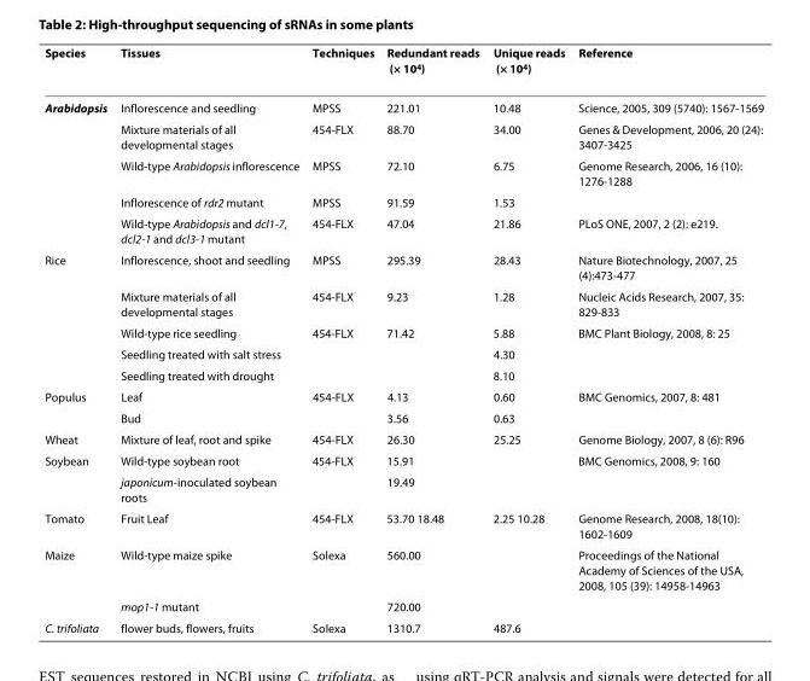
<table><thead><tr><td>Species</td><td>Tissues</td><td>Techniques</td><td>Redundant reads (× 10<sup>4</sup>)</td><td>Unique reads (× 10<sup>4</sup>)</td><td>Reference</td></tr></thead><tbody><tr><td rowspan="5">Arabidopsis</td><td>Inflorescence and seedling</td><td>MPSS</td><td>221.01</td><td>10.48</td><td>Science, 2005, 309 (5740): 1567-1569</td></tr><tr><td>Mixture materials of all developmental stages</td><td>454-FLX</td><td>88.70</td><td>34.00</td><td>Genes &amp; Development, 2006, 20 (24): 3407-3425</td></tr><tr><td>Wild-type Arabidopsis inflorescence</td><td>MPSS</td><td>72.10</td><td>6.75</td><td>Genome Research, 2006, 16 (10): 1276-1288</td></tr><tr><td>Inflorescence of rdr2 mutant</td><td>MPSS</td><td>91.59</td><td>1.53</td><td></td></tr><tr><td>Wild-type Arabidopsis and dcl1-7, dcl2-1 and dcl3-1 mutant</td><td>454-FLX</td><td>47.04</td><td>21.86</td><td>PLoS ONE, 2007, 2 (2): e219.</td></tr><tr><td rowspan="5">Rice</td><td>Inflorescence, shoot and seedling</td><td>MPSS</td><td>295.39</td><td>28.43</td><td>Nature Biotechnology, 2007, 25 (4):473-477</td></tr><tr><td>Mixture materials of all developmental stages</td><td>454-FLX</td><td>9.23</td><td>1.28</td><td>Nucleic Acids Research, 2007, 35: 829-833</td></tr><tr><td>Wild-type rice seedling</td><td>454-FLX</td><td>71.42</td><td>5.88</td><td>BMC Plant Biology, 2008, 8: 25</td></tr><tr><td>Seedling treated with salt stress</td><td></td><td></td><td>4.30</td><td></td></tr><tr><td>Seedling treated with drought</td><td></td><td></td><td>8.10</td><td></td></tr><tr><td rowspan="2">Populus</td><td>Leaf</td><td>454-FLX</td><td>4.13</td><td>0.60</td><td>BMC Genomics, 2007, 8: 481</td></tr><tr><td>Bud</td><td></td><td>3.56</td><td>0.63</td><td></td></tr><tr><td>Wheat</td><td>Mixture of leaf, root and spike</td><td>454-FLX</td><td>26.30</td><td>25.25</td><td>Genome Biology, 2007, 8 (6): R96</td></tr><tr><td rowspan="2">Soybean</td><td>Wild-type soybean root</td><td>454-FLX</td><td>15.91</td><td></td><td>BMC Genomics, 2008, 9: 160</td></tr><tr><td>japonicum-inoculated soybean roots</td><td></td><td>19.49</td><td></td><td></td></tr><tr><td>Tomato</td><td>Fruit Leaf</td><td>454-FLX</td><td>53.70 18.48</td><td>2.25 10.28</td><td>Genome Research, 2008, 18(10): 1602-1609</td></tr><tr><td rowspan="2">Maize</td><td>Wild-type maize spike</td><td>Solexa</td><td>560.00</td><td></td><td>Proceedings of the National Academy of Sciences of the USA, 2008, 105 (39): 14958-14963</td></tr><tr><td>mop1-1 mutant</td><td></td><td>720.00</td><td></td><td></td></tr><tr><td>C. trifoliata</td><td>flower buds, flowers, fruits</td><td>Solexa</td><td>1310.7</td><td>487.6</td><td></td></tr></tbody></table>